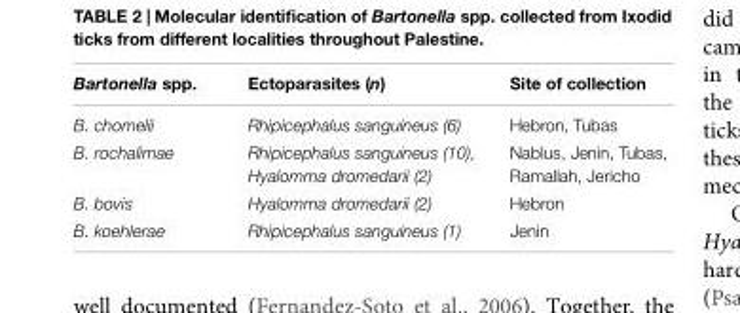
<table><thead><tr><td>Bartonella spp.</td><td>Ectoparasites (n)</td><td>Site of collection</td></tr></thead><tbody><tr><td>B. chomelii</td><td>Rhipicephalus sanguineus (6)</td><td>Hebron, Tubas</td></tr><tr><td>B. rochalimae</td><td>Rhipicephalus sanguineus (10), Hyalomma dromedarii (2)</td><td>Nablus, Jenin, Tubas, Ramallah, Jericho</td></tr><tr><td>B. bovis</td><td>Hyalomma dromedarii (2)</td><td>Hebron</td></tr><tr><td>B. koehlerae</td><td>Rhipicephalus sanguineus (1)</td><td>Jenin</td></tr></tbody></table>